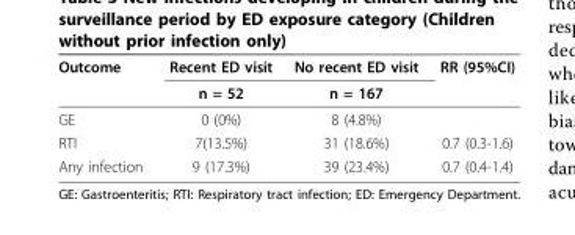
<table><thead><tr><td rowspan="2">Outcome</td><td rowspan="2">Recent ED visit n = 52</td><td rowspan="2">No recent ED visit n = 167</td><td rowspan="2">RR (95%CI)</td></tr><tr></tr></thead><tbody><tr><td>GE</td><td>0 (0%)</td><td>8 (4.8%)</td><td></td></tr><tr><td>RTI</td><td>7(13.5%)</td><td>31 (18.6%)</td><td>0.7 (0.3-1.6)</td></tr><tr><td>Any infection</td><td>9 (17.3%)</td><td>39 (23.4%)</td><td>0.7 (0.4-1.4)</td></tr></tbody></table>